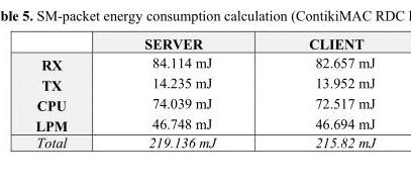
<table><thead><tr><td></td><td>SERVER</td><td>CLIENT</td></tr></thead><tbody><tr><td>RX</td><td>84.114 mJ</td><td>82.657 mJ</td></tr><tr><td>TX</td><td>14.235 mJ</td><td>13.952 mJ</td></tr><tr><td>CPU</td><td>74.039 mJ</td><td>72.517 mJ</td></tr><tr><td>LPM</td><td>46.748 mJ</td><td>46.694 mJ</td></tr><tr><td>Total</td><td>219.136 mJ</td><td>215.82 mJ</td></tr></tbody></table>